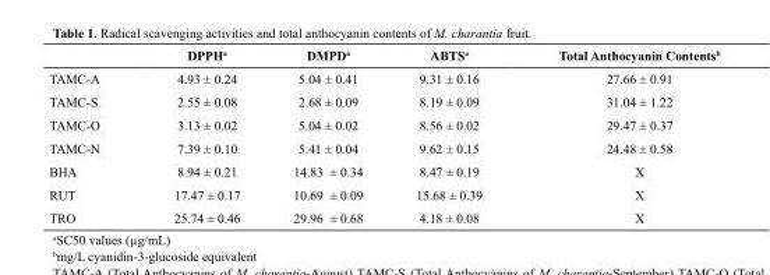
<table><thead><tr><td></td><td>DPPH<sup>a</sup></td><td>DMPD<sup>a</sup></td><td>ABTS<sup>a</sup></td><td>Total Anthocyanin Contents<sup>b</sup></td></tr></thead><tbody><tr><td>TAMC-A</td><td>4.93 ± 0.24</td><td>5.04 ± 0.41</td><td>9.31 ± 0.16</td><td>27.66 ± 0.91</td></tr><tr><td>TAMC-S</td><td>2.55 ± 0.08</td><td>2.68 ± 0.09</td><td>8.19 ± 0.09</td><td>31.04 ± 1.22</td></tr><tr><td>TAMC-O</td><td>3.13 ± 0.02</td><td>5.04 ± 0.02</td><td>8.56 ± 0.02</td><td>29.47 ± 0.37</td></tr><tr><td>TAMC-N</td><td>7.39 ± 0.10</td><td>5.41 ± 0.04</td><td>9.62 ± 0.15</td><td>24.48 ± 0.58</td></tr><tr><td>BHA</td><td>8.94 ± 0.21</td><td>14.83 ± 0.34</td><td>8.47 ± 0.19</td><td>X</td></tr><tr><td>RUT</td><td>17.47 ± 0.17</td><td>10.69 ± 0.09</td><td>15.68 ± 0.39</td><td>X</td></tr><tr><td>TRO</td><td>25.74 ± 0.46</td><td>29.96 ± 0.68</td><td>4.18 ± 0.08</td><td>X</td></tr></tbody></table>